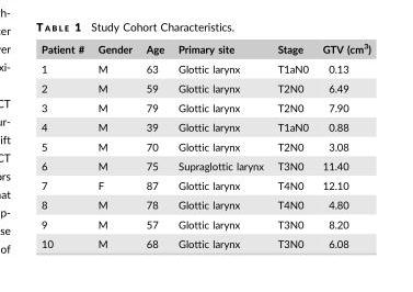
<table><thead><tr><td>Patient #</td><td>Gender</td><td>Age</td><td>Primary site</td><td>Stage</td><td>GTV (cm<sup>3</sup>)</td></tr></thead><tbody><tr><td>1</td><td>M</td><td>63</td><td>Glottic larynx</td><td>T1aN0</td><td>0.13</td></tr><tr><td>2</td><td>M</td><td>59</td><td>Glottic larynx</td><td>T2N0</td><td>6.49</td></tr><tr><td>3</td><td>M</td><td>79</td><td>Glottic larynx</td><td>T2N0</td><td>7.90</td></tr><tr><td>4</td><td>M</td><td>39</td><td>Glottic larynx</td><td>T1aN0</td><td>0.88</td></tr><tr><td>5</td><td>M</td><td>70</td><td>Glottic larynx</td><td>T2N0</td><td>3.08</td></tr><tr><td>6</td><td>M</td><td>75</td><td>Supraglottic larynx</td><td>T3N0</td><td>11.40</td></tr><tr><td>7</td><td>F</td><td>87</td><td>Glottic larynx</td><td>T4N0</td><td>12.10</td></tr><tr><td>8</td><td>M</td><td>78</td><td>Glottic larynx</td><td>T4N0</td><td>4.80</td></tr><tr><td>9</td><td>M</td><td>57</td><td>Glottic larynx</td><td>T3N0</td><td>8.20</td></tr><tr><td>10</td><td>M</td><td>68</td><td>Glottic larynx</td><td>T3N0</td><td>6.08</td></tr></tbody></table>